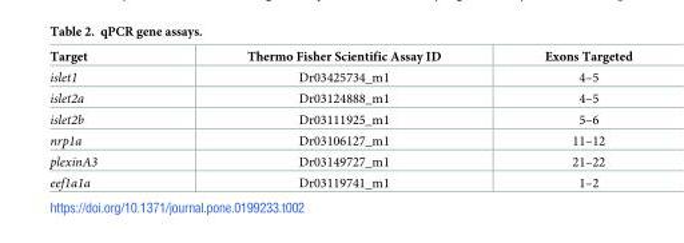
<table><thead><tr><td>Target</td><td>Thermo Fisher Scientific Assay ID</td><td>Exons Targeted</td></tr></thead><tbody><tr><td>islet1</td><td>Dr03425734_m1</td><td>4–5</td></tr><tr><td>islet2a</td><td>Dr03124888_m1</td><td>4–5</td></tr><tr><td>islet2b</td><td>Dr03111925_m1</td><td>5–6</td></tr><tr><td>nrp1a</td><td>Dr03106127_m1</td><td>11–12</td></tr><tr><td>plexinA3</td><td>Dr03149727_m1</td><td>21–22</td></tr><tr><td>eef1a1a</td><td>Dr03119741_m1</td><td>1–2</td></tr></tbody></table>